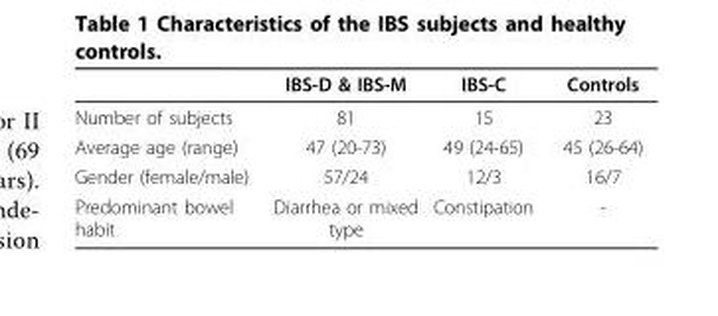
<table><thead><tr><td></td><td>IBS-D &amp; IBS-M</td><td>IBS-C</td><td>Controls</td></tr></thead><tbody><tr><td>Number of subjects</td><td>81</td><td>15</td><td>23</td></tr><tr><td>Average age (range)</td><td>47 (20-73)</td><td>49 (24-65)</td><td>45 (26-64)</td></tr><tr><td>Gender (female/male)</td><td>57/24</td><td>12/3</td><td>16/7</td></tr><tr><td>Predominant bowel habit</td><td>Diarrhea or mixed type</td><td>Constipation</td><td>-</td></tr></tbody></table>